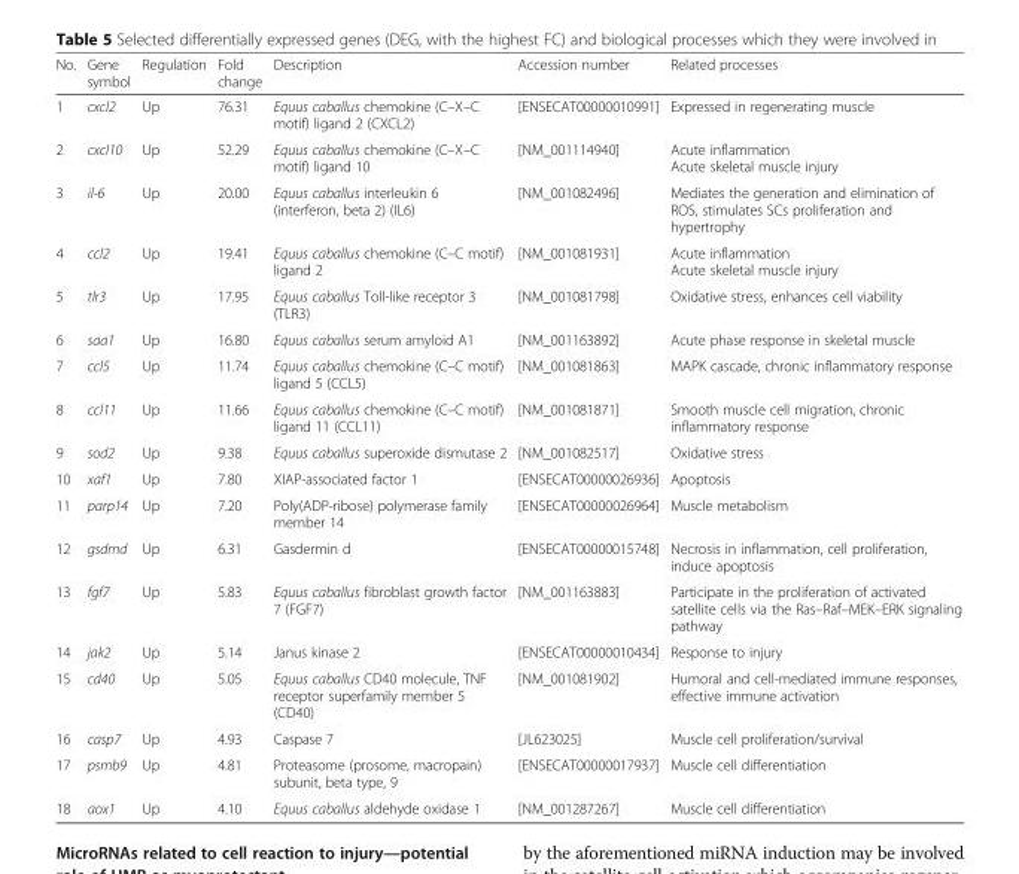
<table><thead><tr><td>No.</td><td>Gene symbol</td><td>Regulation</td><td>Fold change</td><td>Description</td><td>Accession number</td><td>Related processes</td></tr></thead><tbody><tr><td>1</td><td>cxcl2</td><td>Up</td><td>76.31</td><td>Equus caballus chemokine (C–X–C motif) ligand 2 (CXCL2)</td><td>[ENSECAT00000010991]</td><td>Expressed in regenerating muscle</td></tr><tr><td>2</td><td>cxcl10</td><td>Up</td><td>52.29</td><td>Equus caballus chemokine (C–X–C motif) ligand 10</td><td>[NM_001114940]</td><td>Acute inflammation Acute skeletal muscle injury</td></tr><tr><td>3</td><td>il-6</td><td>Up</td><td>20.00</td><td>Equus caballus interleukin 6 (interferon, beta 2) (IL6)</td><td>[NM_001082496]</td><td>Mediates the generation and elimination of ROS, stimulates SCs proliferation and hypertrophy</td></tr><tr><td>4</td><td>ccl2</td><td>Up</td><td>19.41</td><td>Equus caballus chemokine (C–C motif) ligand 2</td><td>[NM_001081931]</td><td>Acute inflammation Acute skeletal muscle injury</td></tr><tr><td>5</td><td>tlr3</td><td>Up</td><td>17.95</td><td>Equus caballus Toll-like receptor 3 (TLR3)</td><td>[NM_001081798]</td><td>Oxidative stress, enhances cell viability</td></tr><tr><td>6</td><td>saa1</td><td>Up</td><td>16.80</td><td>Equus caballus serum amyloid A1</td><td>[NM_001163892]</td><td>Acute phase response in skeletal muscle</td></tr><tr><td>7</td><td>ccl5</td><td>Up</td><td>11.74</td><td>Equus caballus chemokine (C–C motif) ligand 5 (CCL5)</td><td>[NM_001081863]</td><td>MAPK cascade, chronic inflammatory response</td></tr><tr><td>8</td><td>ccl11</td><td>Up</td><td>11.66</td><td>Equus caballus chemokine (C–C motif) ligand 11 (CCL11)</td><td>[NM_001081871]</td><td>Smooth muscle cell migration, chronic inflammatory response</td></tr><tr><td>9</td><td>sod2</td><td>Up</td><td>9.38</td><td>Equus caballus superoxide dismutase 2</td><td>[NM_001082517]</td><td>Oxidative stress</td></tr><tr><td>10</td><td>xaf1</td><td>Up</td><td>7.80</td><td>XIAP-associated factor 1</td><td>[ENSECAT00000026936]</td><td>Apoptosis</td></tr><tr><td>11</td><td>parp14</td><td>Up</td><td>7.20</td><td>Poly(ADP-ribose) polymerase family member 14</td><td>[ENSECAT00000026964]</td><td>Muscle metabolism</td></tr><tr><td>12</td><td>gsdmd</td><td>Up</td><td>6.31</td><td>Gasdermin d</td><td>[ENSECAT00000015748]</td><td>Necrosis in inflammation, cell proliferation, induce apoptosis</td></tr><tr><td>13</td><td>fgf7</td><td>Up</td><td>5.83</td><td>Equus caballus fibroblast growth factor 7 (FGF7)</td><td>[NM_001163883]</td><td>Participate in the proliferation of activated satellite cells via the Ras–Raf–MEK–ERK signaling pathway</td></tr><tr><td>14</td><td>jak2</td><td>Up</td><td>5.14</td><td>Janus kinase 2</td><td>[ENSECAT00000010434]</td><td>Response to injury</td></tr><tr><td>15</td><td>cd40</td><td>Up</td><td>5.05</td><td>Equus caballus CD40 molecule, TNF receptor superfamily member 5 (CD40)</td><td>[NM_001081902]</td><td>Humoral and cell-mediated immune responses, effective immune activation</td></tr><tr><td>16</td><td>casp7</td><td>Up</td><td>4.93</td><td>Caspase 7</td><td>[JL623025]</td><td>Muscle cell proliferation/survival</td></tr><tr><td>17</td><td>psmb9</td><td>Up</td><td>4.81</td><td>Proteasome (prosome, macropain) subunit, beta type, 9</td><td>[ENSECAT00000017937]</td><td>Muscle cell differentiation</td></tr><tr><td>18</td><td>aox1</td><td>Up</td><td>4.10</td><td>Equus caballus aldehyde oxidase 1</td><td>[NM_001287267]</td><td>Muscle cell differentiation</td></tr></tbody></table>